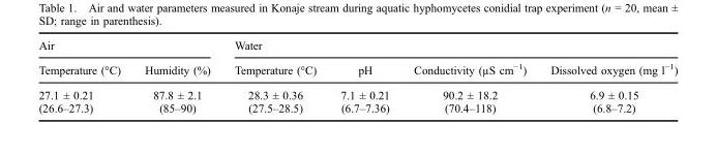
<table><thead><tr><td colspan="2">Air</td><td colspan="4">Water</td></tr><tr><td>Temperature (°C)</td><td>Humidity (%)</td><td>Temperature (°C)</td><td>pH</td><td>Conductivity (µS cm<sup>−1</sup>)</td><td>Dissolved oxygen (mg l<sup>−1</sup>)</td></tr></thead><tbody><tr><td>27.1 ± 0.21</td><td>87.8 ± 2.1</td><td>28.3 ± 0.36</td><td>7.1 ± 0.21</td><td>90.2 ± 18.2</td><td>6.9 ± 0.15</td></tr><tr><td>(26.6–27.3)</td><td>(85–90)</td><td>(27.5–28.5)</td><td>(6.7–7.36)</td><td>(70.4–118)</td><td>(6.8–7.2)</td></tr></tbody></table>